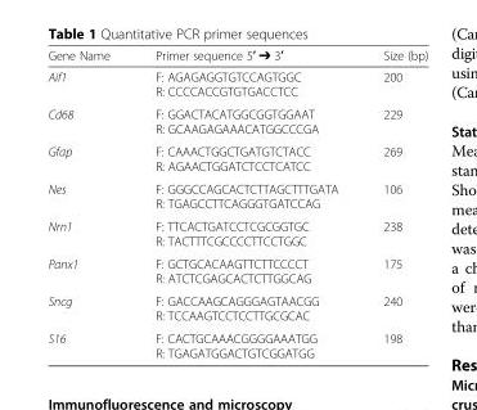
<table><thead><tr><td>Gene Name</td><td>Primer sequence 5′ ➔ 3′</td><td>Size (bp)</td></tr></thead><tbody><tr><td>Aif1</td><td>F: AGAGAGGTGTCCAGTGGC R: CCCCACCGTGTGACCTCC</td><td>200</td></tr><tr><td>Cd68</td><td>F: GGACTACATGGCGGTGGAAT R: GCAAGAGAAACATGGCCCGA</td><td>229</td></tr><tr><td>Gfap</td><td>F: CAAACTGGCTGATGTCTACC R: AGAACTGGATCTCCTCATCC</td><td>269</td></tr><tr><td>Nes</td><td>F: GGGCCAGCACTCTTAGCTTTGATA R: TGAGCCTTCAGGGTGATCCAG</td><td>106</td></tr><tr><td>Nrn1</td><td>F: TTCACTGATCCTCGCGGTGC R: TACTTTCGCCCCTTCCTGGC</td><td>238</td></tr><tr><td>Panx1</td><td>F: GCTGCACAAGTTCTTCCCCT R: ATCTCGAGCACTCTTGGCAG</td><td>175</td></tr><tr><td>Sncg</td><td>F: GACCAAGCAGGGAGTAACGG R: TCCAAGTCCTCCTTGCGCAC</td><td>240</td></tr><tr><td>S16</td><td>F: CACTGCAAACGGGGAAATGG R: TGAGATGGACTGTCGGATGG</td><td>198</td></tr></tbody></table>